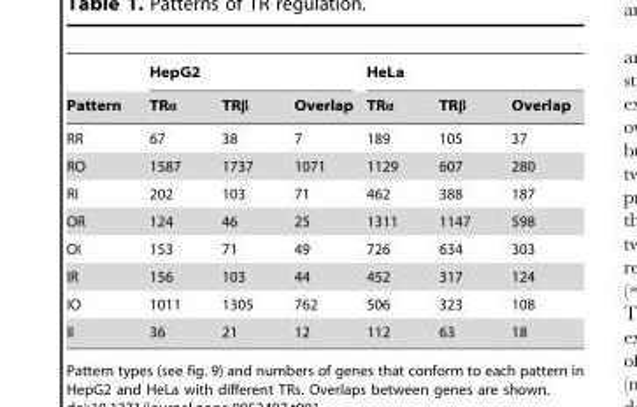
<table><thead><tr><td rowspan="2">Pattern</td><td colspan="3">HepG2</td><td colspan="3">HeLa</td></tr><tr><td>TRα</td><td>TRβ</td><td>Overlap</td><td>TRα</td><td>TRβ</td><td>Overlap</td></tr></thead><tbody><tr><td>RR</td><td>67</td><td>38</td><td>7</td><td>189</td><td>105</td><td>37</td></tr><tr><td>RO</td><td>1587</td><td>1737</td><td>1071</td><td>1129</td><td>607</td><td>280</td></tr><tr><td>RI</td><td>202</td><td>103</td><td>71</td><td>462</td><td>388</td><td>187</td></tr><tr><td>OR</td><td>124</td><td>46</td><td>25</td><td>1311</td><td>1147</td><td>598</td></tr><tr><td>OI</td><td>153</td><td>71</td><td>49</td><td>726</td><td>634</td><td>303</td></tr><tr><td>IR</td><td>156</td><td>103</td><td>44</td><td>452</td><td>317</td><td>124</td></tr><tr><td>IO</td><td>1011</td><td>1305</td><td>762</td><td>506</td><td>323</td><td>108</td></tr><tr><td>II</td><td>36</td><td>21</td><td>12</td><td>112</td><td>63</td><td>18</td></tr></tbody></table>